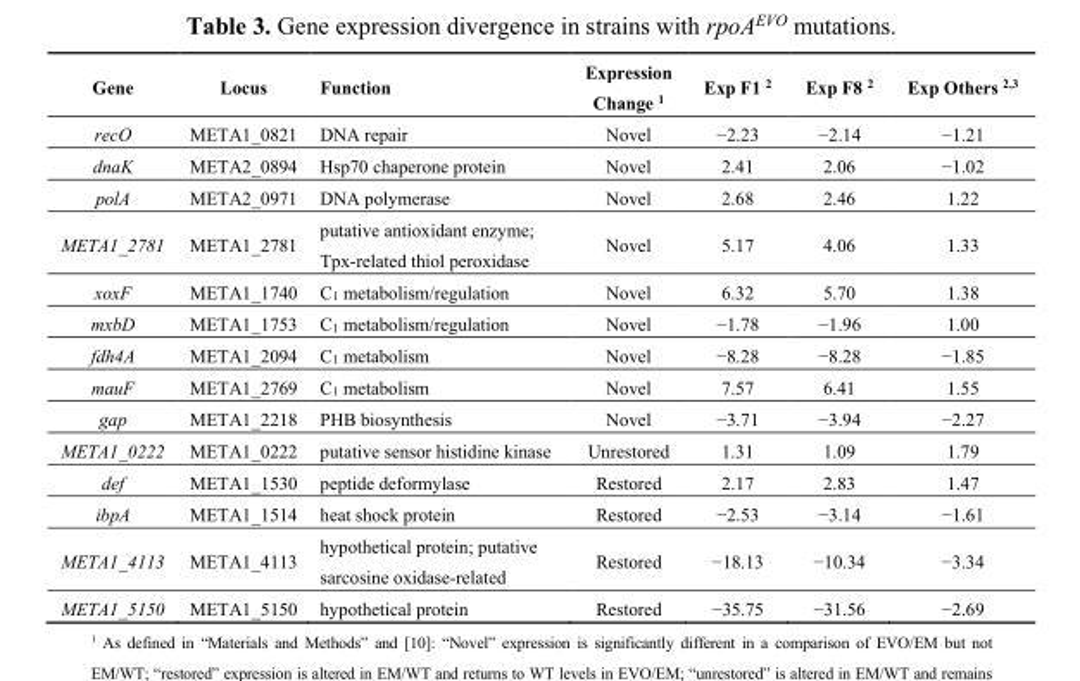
<table><thead><tr><td>Gene</td><td>Locus</td><td>Function</td><td>Expression Change <sup>1</sup></td><td>Exp F1 <sup>2</sup></td><td>Exp F8 <sup>2</sup></td><td>Exp Others <sup>2,3</sup></td></tr></thead><tbody><tr><td>recO</td><td>META1_0821</td><td>DNA repair</td><td>Novel</td><td>−2.23</td><td>−2.14</td><td>−1.21</td></tr><tr><td>dnaK</td><td>META2_0894</td><td>Hsp70 chaperone protein</td><td>Novel</td><td>2.41</td><td>2.06</td><td>−1.02</td></tr><tr><td>polA</td><td>META2_0971</td><td>DNA polymerase</td><td>Novel</td><td>2.68</td><td>2.46</td><td>1.22</td></tr><tr><td>META1_2781</td><td>META1_2781</td><td>putative antioxidant enzyme; Tpx-related thiol peroxidase</td><td>Novel</td><td>5.17</td><td>4.06</td><td>1.33</td></tr><tr><td>xoxF</td><td>META1_1740</td><td>C<sub>1</sub> metabolism/regulation</td><td>Novel</td><td>6.32</td><td>5.70</td><td>1.38</td></tr><tr><td>mxbD</td><td>META1_1753</td><td>C<sub>1</sub> metabolism/regulation</td><td>Novel</td><td>−1.78</td><td>−1.96</td><td>1.00</td></tr><tr><td>fdh4A</td><td>META1_2094</td><td>C<sub>1</sub> metabolism</td><td>Novel</td><td>−8.28</td><td>−8.28</td><td>−1.85</td></tr><tr><td>mauF</td><td>META1_2769</td><td>C<sub>1</sub> metabolism</td><td>Novel</td><td>7.57</td><td>6.41</td><td>1.55</td></tr><tr><td>gap</td><td>META1_2218</td><td>PHB biosynthesis</td><td>Novel</td><td>−3.71</td><td>−3.94</td><td>−2.27</td></tr><tr><td>META1_0222</td><td>META1_0222</td><td>putative sensor histidine kinase</td><td>Unrestored</td><td>1.31</td><td>1.09</td><td>1.79</td></tr><tr><td>def</td><td>META1_1530</td><td>peptide deformylase</td><td>Restored</td><td>2.17</td><td>2.83</td><td>1.47</td></tr><tr><td>ibpA</td><td>META1_1514</td><td>heat shock protein</td><td>Restored</td><td>−2.53</td><td>−3.14</td><td>−1.61</td></tr><tr><td>META1_4113</td><td>META1_4113</td><td>hypothetical protein; putative sarcosine oxidase-related</td><td>Restored</td><td>−18.13</td><td>−10.34</td><td>−3.34</td></tr><tr><td>META1_5150</td><td>META1_5150</td><td>hypothetical protein</td><td>Restored</td><td>−35.75</td><td>−31.56</td><td>−2.69</td></tr></tbody></table>